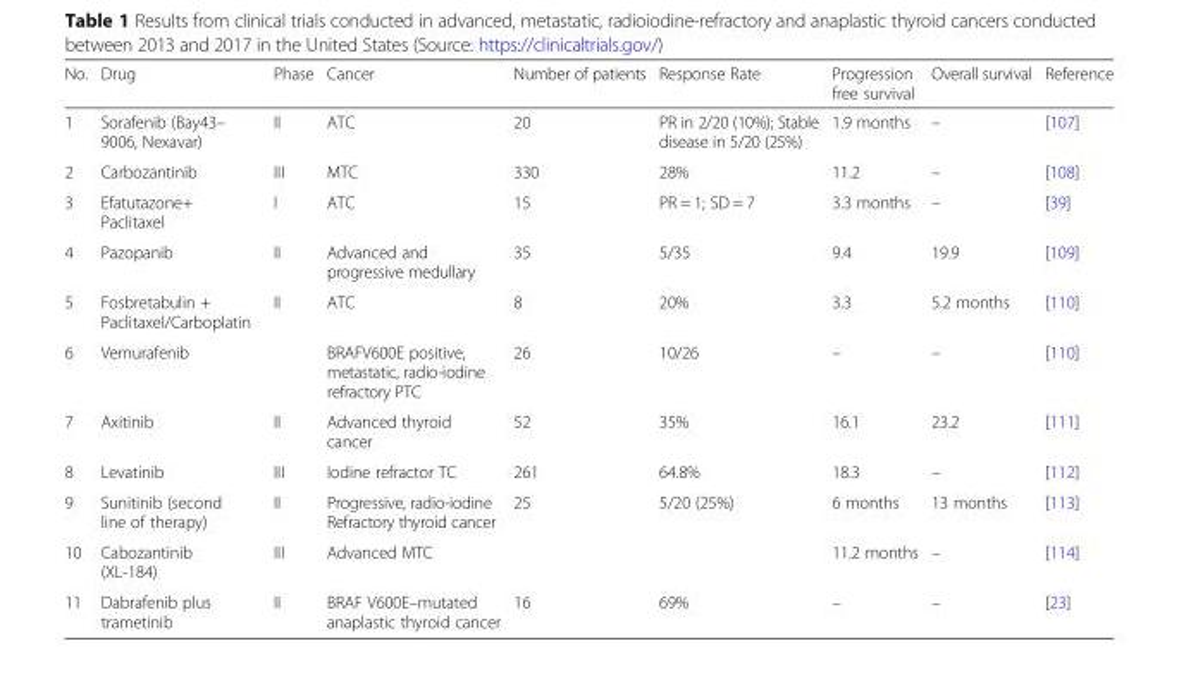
<table><thead><tr><td>No.</td><td>Drug</td><td>Phase</td><td>Cancer</td><td>Number of patients</td><td>Response Rate</td><td>Progression free survival</td><td>Overall survival</td><td>Reference</td></tr></thead><tbody><tr><td>1</td><td>Sorafenib (Bay43– 9006, Nexavar)</td><td>II</td><td>ATC</td><td>20</td><td>PR in 2/20 (10%); Stable disease in 5/20 (25%)</td><td>1.9 months</td><td>–</td><td>[107]</td></tr><tr><td>2</td><td>Carbozantinib</td><td>III</td><td>MTC</td><td>330</td><td>28%</td><td>11.2</td><td>–</td><td>[108]</td></tr><tr><td>3</td><td>Efatutazone+ Paclitaxel</td><td>I</td><td>ATC</td><td>15</td><td>PR = 1; SD = 7</td><td>3.3 months</td><td>–</td><td>[39]</td></tr><tr><td>4</td><td>Pazopanib</td><td>II</td><td>Advanced and progressive medullary</td><td>35</td><td>5/35</td><td>9.4</td><td>19.9</td><td>[109]</td></tr><tr><td>5</td><td>Fosbretabulin + Paclitaxel/Carboplatin</td><td>II</td><td>ATC</td><td>8</td><td>20%</td><td>3.3</td><td>5.2 months</td><td>[110]</td></tr><tr><td>6</td><td>Vemurafenib</td><td></td><td>BRAFV600E positive, metastatic, radio-iodine refractory PTC</td><td>26</td><td>10/26</td><td>–</td><td>–</td><td>[110]</td></tr><tr><td>7</td><td>Axitinib</td><td>II</td><td>Advanced thyroid cancer</td><td>52</td><td>35%</td><td>16.1</td><td>23.2</td><td>[111]</td></tr><tr><td>8</td><td>Levatinib</td><td>III</td><td>Iodine refractor TC</td><td>261</td><td>64.8%</td><td>18.3</td><td>–</td><td>[112]</td></tr><tr><td>9</td><td>Sunitinib (second line of therapy)</td><td>II</td><td>Progressive, radio-iodine Refractory thyroid cancer</td><td>25</td><td>5/20 (25%)</td><td>6 months</td><td>13 months</td><td>[113]</td></tr><tr><td>10</td><td>Cabozantinib (XL-184)</td><td>III</td><td>Advanced MTC</td><td></td><td></td><td>11.2 months</td><td>–</td><td>[114]</td></tr><tr><td>11</td><td>Dabrafenib plus trametinib</td><td>II</td><td>BRAF V600E–mutated anaplastic thyroid cancer</td><td>16</td><td>69%</td><td>–</td><td>–</td><td>[23]</td></tr></tbody></table>